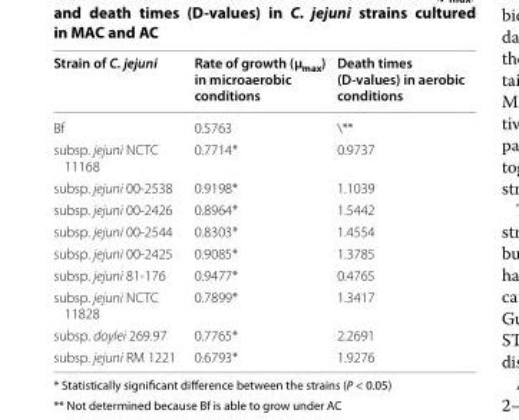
<table><thead><tr><td>Strain of C. jejuni</td><td>Rate of growth (µ<sub>max</sub>) in microaerobic conditions</td><td>Death times (D-values) in aerobic conditions</td></tr></thead><tbody><tr><td>Bf</td><td>0.5763</td><td>\**</td></tr><tr><td>subsp. jejuni NCTC 11168</td><td>0.7714*</td><td>0.9737</td></tr><tr><td>subsp. jejuni 00‑2538</td><td>0.9198*</td><td>1.1039</td></tr><tr><td>subsp. jejuni 00‑2426</td><td>0.8964*</td><td>1.5442</td></tr><tr><td>subsp. jejuni 00‑2544</td><td>0.8303*</td><td>1.4554</td></tr><tr><td>subsp. jejuni 00‑2425</td><td>0.9085*</td><td>1.3785</td></tr><tr><td>subsp. jejuni 81‑176</td><td>0.9477*</td><td>0.4765</td></tr><tr><td>subsp. jejuni NCTC 11828</td><td>0.7899*</td><td>1.3417</td></tr><tr><td>subsp. doylei 269.97</td><td>0.7765*</td><td>2.2691</td></tr><tr><td>subsp. jejuni RM 1221</td><td>0.6793*</td><td>1.9276</td></tr></tbody></table>